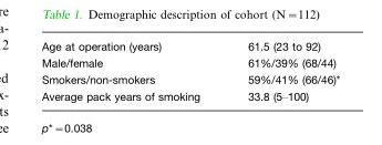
<table><tbody><tr><td>Age at operation (years)</td><td>61.5 (23 to 92)</td></tr><tr><td>Male/female</td><td>61%/39% (68/44)</td></tr><tr><td>Smokers/non-smokers</td><td>59%/41% (66/46)*</td></tr><tr><td>Average pack years of smoking</td><td>33.8 (5–100)</td></tr></tbody></table>